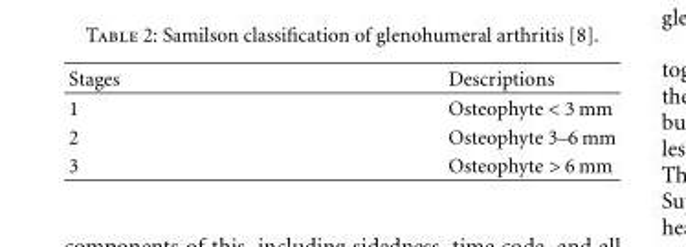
<table><thead><tr><td>Stages</td><td>Descriptions</td></tr></thead><tbody><tr><td>1</td><td>Osteophyte &lt; 3 mm</td></tr><tr><td>2</td><td>Osteophyte 3–6 mm</td></tr><tr><td>3</td><td>Osteophyte &gt; 6 mm</td></tr></tbody></table>